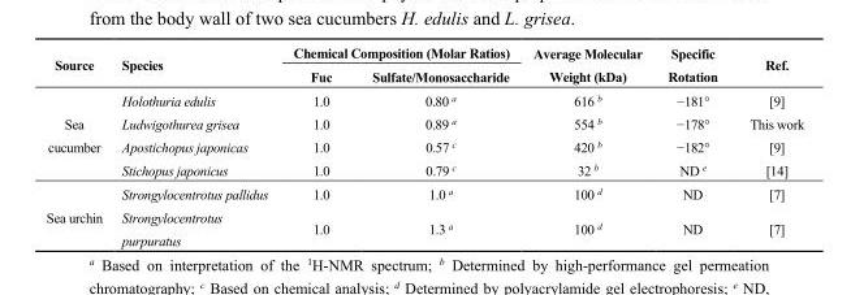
<table><thead><tr><td rowspan="2">Source</td><td rowspan="2">Species</td><td colspan="2">Chemical Composition (Molar Ratios)</td><td rowspan="2">Average Molecular Weight (kDa)</td><td rowspan="2">Specific Rotation</td><td rowspan="2">Ref.</td></tr><tr><td>Fuc</td><td>Sulfate/Monosaccharide</td></tr></thead><tbody><tr><td rowspan="4">Sea cucumber</td><td>Holothuria edulis</td><td>1.0</td><td>0.80 <sup>a</sup></td><td>616 <sup>b</sup></td><td>−181°</td><td>[9]</td></tr><tr><td>Ludwigothurea grisea</td><td>1.0</td><td>0.89 <sup>a</sup></td><td>554 <sup>b</sup></td><td>−178°</td><td>This work</td></tr><tr><td>Apostichopus japonicas</td><td>1.0</td><td>0.57 <sup>c</sup></td><td>420 <sup>b</sup></td><td>−182°</td><td>[9]</td></tr><tr><td>Stichopus japonicus</td><td>1.0</td><td>0.79 <sup>c</sup></td><td>32 <sup>b</sup></td><td>ND <sup>e</sup></td><td>[14]</td></tr><tr><td rowspan="2">Sea urchin</td><td>Strongylocentrotus pallidus</td><td>1.0</td><td>1.0 <sup>a</sup></td><td>100 <sup>d</sup></td><td>ND</td><td>[7]</td></tr><tr><td>Strongylocentrotus purpuratus</td><td>1.0</td><td>1.3 <sup>a</sup></td><td>100 <sup>d</sup></td><td>ND</td><td>[7]</td></tr></tbody></table>